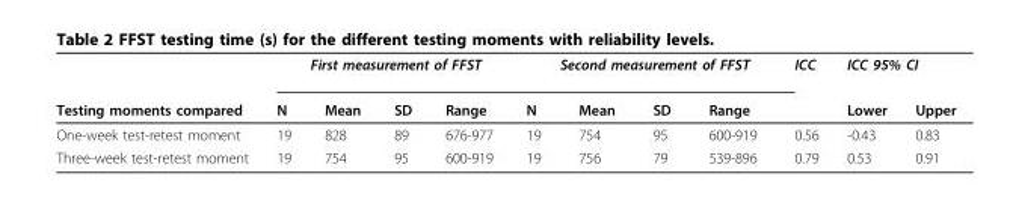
<table><thead><tr><td rowspan="2">Testing moments compared</td><td colspan="4">First measurement of FFST</td><td colspan="4">Second measurement of FFST</td><td rowspan="2">ICC</td><td colspan="2">ICC 95% CI</td></tr><tr><td>N</td><td>Mean</td><td>SD</td><td>Range</td><td>N</td><td>Mean</td><td>SD</td><td>Range</td><td>Lower</td><td>Upper</td></tr></thead><tbody><tr><td>One-week test-retest moment</td><td>19</td><td>828</td><td>89</td><td>676-977</td><td>19</td><td>754</td><td>95</td><td>600-919</td><td>0.56</td><td>-0.43</td><td>0.83</td></tr><tr><td>Three-week test-retest moment</td><td>19</td><td>754</td><td>95</td><td>600-919</td><td>19</td><td>756</td><td>79</td><td>539-896</td><td>0.79</td><td>0.53</td><td>0.91</td></tr></tbody></table>